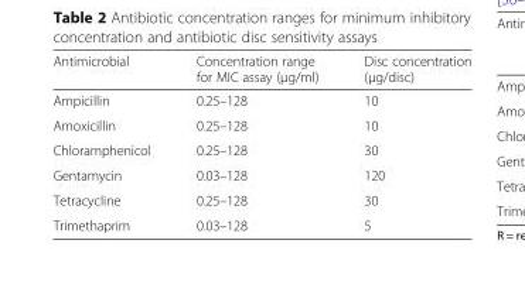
<table><thead><tr><td>Antimicrobial</td><td>Concentration range for MIC assay (μg/ml)</td><td>Disc concentration (μg/disc)</td></tr></thead><tbody><tr><td>Ampicillin</td><td>0.25–128</td><td>10</td></tr><tr><td>Amoxicillin</td><td>0.25–128</td><td>10</td></tr><tr><td>Chloramphenicol</td><td>0.25–128</td><td>30</td></tr><tr><td>Gentamycin</td><td>0.03–128</td><td>120</td></tr><tr><td>Tetracycline</td><td>0.25–128</td><td>30</td></tr><tr><td>Trimethaprim</td><td>0.03–128</td><td>5</td></tr></tbody></table>